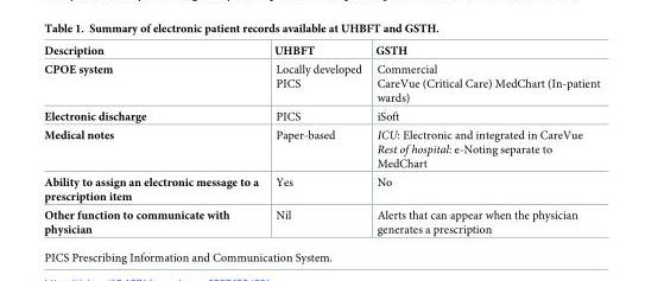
<table><thead><tr><td>Description</td><td>UHBFT</td><td>GSTH</td></tr></thead><tbody><tr><td>CPOE system</td><td>Locally developed PICS</td><td>Commercial CareVue (Critical Care) MedChart (In-patient wards)</td></tr><tr><td>Electronic discharge</td><td>PICS</td><td>iSoft</td></tr><tr><td>Medical notes</td><td>Paper-based</td><td>ICU: Electronic and integrated in CareVue Rest of hospital: e-Noting separate to MedChart</td></tr><tr><td>Ability to assign an electronic message to a prescription item</td><td>Yes</td><td>No</td></tr><tr><td>Other function to communicate with physician</td><td>Nil</td><td>Alerts that can appear when the physician generates a prescription</td></tr></tbody></table>